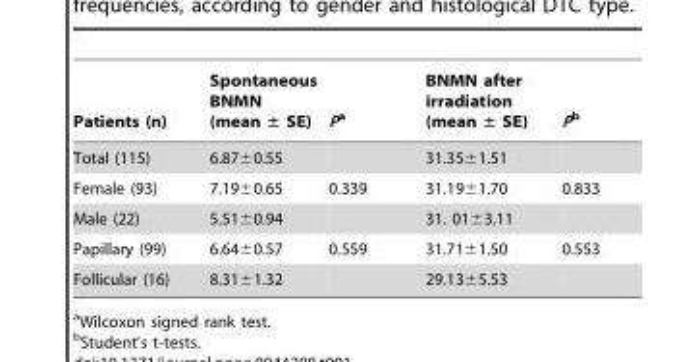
<table><thead><tr><td>Patients (n)</td><td>Spontaneous BNMN (mean ± SE)</td><td>Pa</td><td>BNMN after irradiation (mean ± SE)</td><td>Pb</td></tr></thead><tbody><tr><td>Total (115)</td><td>6.87±0.55</td><td></td><td>31.35±1.51</td><td></td></tr><tr><td>Female (93)</td><td>7.19±0.65</td><td>0.339</td><td>31.19±1.70</td><td>0.833</td></tr><tr><td>Male (22)</td><td>5.51±0.94</td><td></td><td>31. 01±3.11</td><td></td></tr><tr><td>Papillary (99)</td><td>6.64±0.57</td><td>0.559</td><td>31.71±1.50</td><td>0.553</td></tr><tr><td>Follicular (16)</td><td>8.31±1.32</td><td></td><td>29.13±5.53</td><td></td></tr></tbody></table>